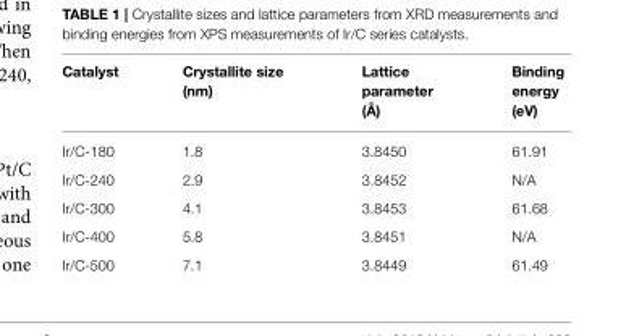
<table><thead><tr><td>Catalyst</td><td>Crystallite size (nm)</td><td>Lattice parameter (Å)</td><td>Binding energy (eV)</td></tr></thead><tbody><tr><td>Ir/C-180</td><td>1.8</td><td>3.8450</td><td>61.91</td></tr><tr><td>Ir/C-240</td><td>2.9</td><td>3.8452</td><td>N/A</td></tr><tr><td>Ir/C-300</td><td>4.1</td><td>3.8453</td><td>61.68</td></tr><tr><td>Ir/C-400</td><td>5.8</td><td>3.8451</td><td>N/A</td></tr><tr><td>Ir/C-500</td><td>7.1</td><td>3.8449</td><td>61.49</td></tr></tbody></table>